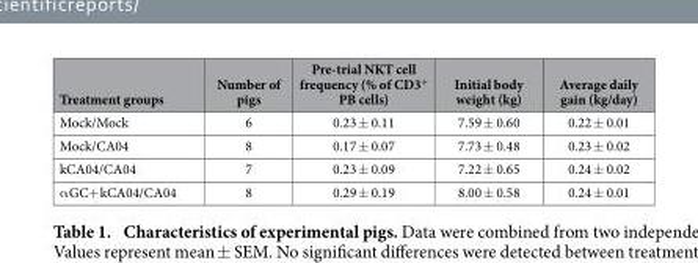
<table><thead><tr><td>Treatment groups</td><td>Number of pigs</td><td>Pre-trial NKT cell frequency (% of CD3<sup>+</sup> PB cells)</td><td>Initial body weight (kg)</td><td>Average daily gain (kg/day)</td></tr></thead><tbody><tr><td>Mock/Mock</td><td>6</td><td>0.23 ± 0.11</td><td>7.59 ± 0.60</td><td>0.22 ± 0.01</td></tr><tr><td>Mock/CA04</td><td>8</td><td>0.17 ± 0.07</td><td>7.73 ± 0.48</td><td>0.23 ± 0.02</td></tr><tr><td>kCA04/CA04</td><td>7</td><td>0.23 ± 0.09</td><td>7.22 ± 0.65</td><td>0.24 ± 0.02</td></tr><tr><td>α GC+ kCA04/CA04</td><td>8</td><td>0.29 ± 0.19</td><td>8.00 ± 0.58</td><td>0.24 ± 0.01</td></tr></tbody></table>